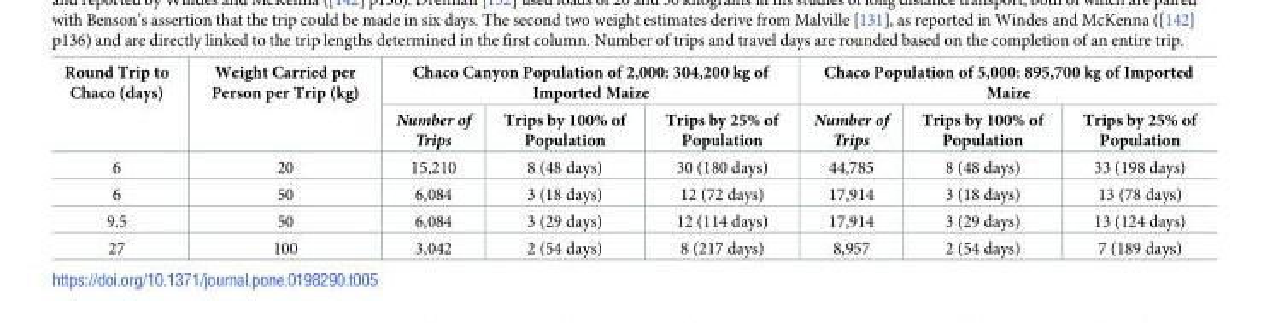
<table><thead><tr><td rowspan="2">Round Trip to Chaco (days)</td><td rowspan="2">Weight Carried per Person per Trip (kg)</td><td colspan="3">Chaco Canyon Population of 2,000: 304,200 kg of Imported Maize</td><td colspan="3">Chaco Population of 5,000: 895,700 kg of Imported Maize</td></tr><tr><td>Number of Trips</td><td>Trips by 100% of Population</td><td>Trips by 25% of Population</td><td>Number of Trips</td><td>Trips by 100% of Population</td><td>Trips by 25% of Population</td></tr></thead><tbody><tr><td>6</td><td>20</td><td>15,210</td><td>8 (48 days)</td><td>30 (180 days)</td><td>44,785</td><td>8 (48 days)</td><td>33 (198 days)</td></tr><tr><td>6</td><td>50</td><td>6,084</td><td>3 (18 days)</td><td>12 (72 days)</td><td>17,914</td><td>3 (18 days)</td><td>13 (78 days)</td></tr><tr><td>9.5</td><td>50</td><td>6,084</td><td>3 (29 days)</td><td>12 (114 days)</td><td>17,914</td><td>3 (29 days)</td><td>13 (124 days)</td></tr><tr><td>27</td><td>100</td><td>3,042</td><td>2 (54 days)</td><td>8 (217 days)</td><td>8,957</td><td>2 (54 days)</td><td>7 (189 days)</td></tr></tbody></table>